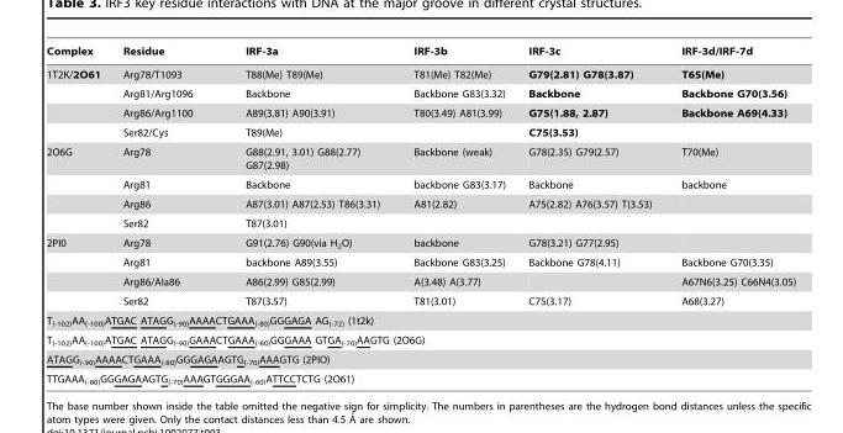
<table><thead><tr><td>Complex</td><td>Residue</td><td>IRF-3a</td><td>IRF-3b</td><td>IRF-3c</td><td>IRF-3d/IRF-7d</td></tr></thead><tbody><tr><td rowspan="4">1T2K/2O61</td><td>Arg78/T1093</td><td>T88(Me) T89(Me)</td><td>T81(Me) T82(Me)</td><td>G79(2.81) G78(3.87)</td><td>T65(Me)</td></tr><tr><td>Arg81/Arg1096</td><td>Backbone</td><td>Backbone G83(3.32)</td><td>Backbone</td><td>Backbone G70(3.56)</td></tr><tr><td>Arg86/Arg1100</td><td>A89(3.81) A90(3.91)</td><td>T80(3.49) A81(3.99)</td><td>G75(1.88, 2.87)</td><td>Backbone A69(4.33)</td></tr><tr><td>Ser82/Cys</td><td>T89(Me)</td><td></td><td>C75(3.53)</td><td></td></tr><tr><td rowspan="4">2O6G</td><td>Arg78</td><td>G88(2.91, 3.01) G88(2.77) G87(2.98)</td><td>Backbone (weak)</td><td>G78(2.35) G79(2.57)</td><td>T70(Me)</td></tr><tr><td>Arg81</td><td>Backbone</td><td>backbone G83(3.17)</td><td>Backbone</td><td>backbone</td></tr><tr><td>Arg86</td><td>A87(3.01) A87(2.53) T86(3.31)</td><td>A81(2.82)</td><td>A75(2.82) A76(3.57) T(3.53)</td><td></td></tr><tr><td>Ser82</td><td>T87(3.01)</td><td></td><td></td><td></td></tr><tr><td rowspan="4">2PI0</td><td>Arg78</td><td>G91(2.76) G90(via H<sub>2</sub>O)</td><td>backbone</td><td>G78(3.21) G77(2.95)</td><td></td></tr><tr><td>Arg81</td><td>backbone A89(3.55)</td><td>Backbone G83(3.25)</td><td>Backbone G78(4.11)</td><td>Backbone G70(3.35)</td></tr><tr><td>Arg86/Ala86</td><td>A86(2.99) G85(2.99)</td><td>A(3.48) A(3.77)</td><td></td><td>A67N6(3.25) C66N4(3.05)</td></tr><tr><td>Ser82</td><td>T87(3.57)</td><td>T81(3.01)</td><td>C75(3.17)</td><td>A68(3.27)</td></tr><tr><td colspan="6">T<sub>(-102)</sub>AA<sub>(-100)</sub>ATGAC ATAGG<sub>(-90)</sub>AAAACTGAAA<sub>(-80)</sub>GGGAGA AG<sub>(-72)</sub> (1t2k)</td></tr><tr><td colspan="6">T<sub>(-102)</sub>AA<sub>(-100)</sub>ATGAC ATAGG<sub>(-90)</sub>GAAACTGAAA<sub>(-80)</sub>GGGAAA GTGA<sub>(-70)</sub>AAGTG (2O6G)</td></tr><tr><td colspan="6">ATAGG<sub>(-90)</sub>AAAACTGAAA<sub>(-80)</sub>GGGAGAAGTG<sub>(-70)</sub>AAAGTG (2PIO)</td></tr><tr><td colspan="6">TTGAAA<sub>(-80)</sub>GGGAGAAGTG<sub>(-70)</sub>AAAGTGGGAA<sub>(-60)</sub>ATTCCTCTG (2O61)</td></tr></tbody></table>